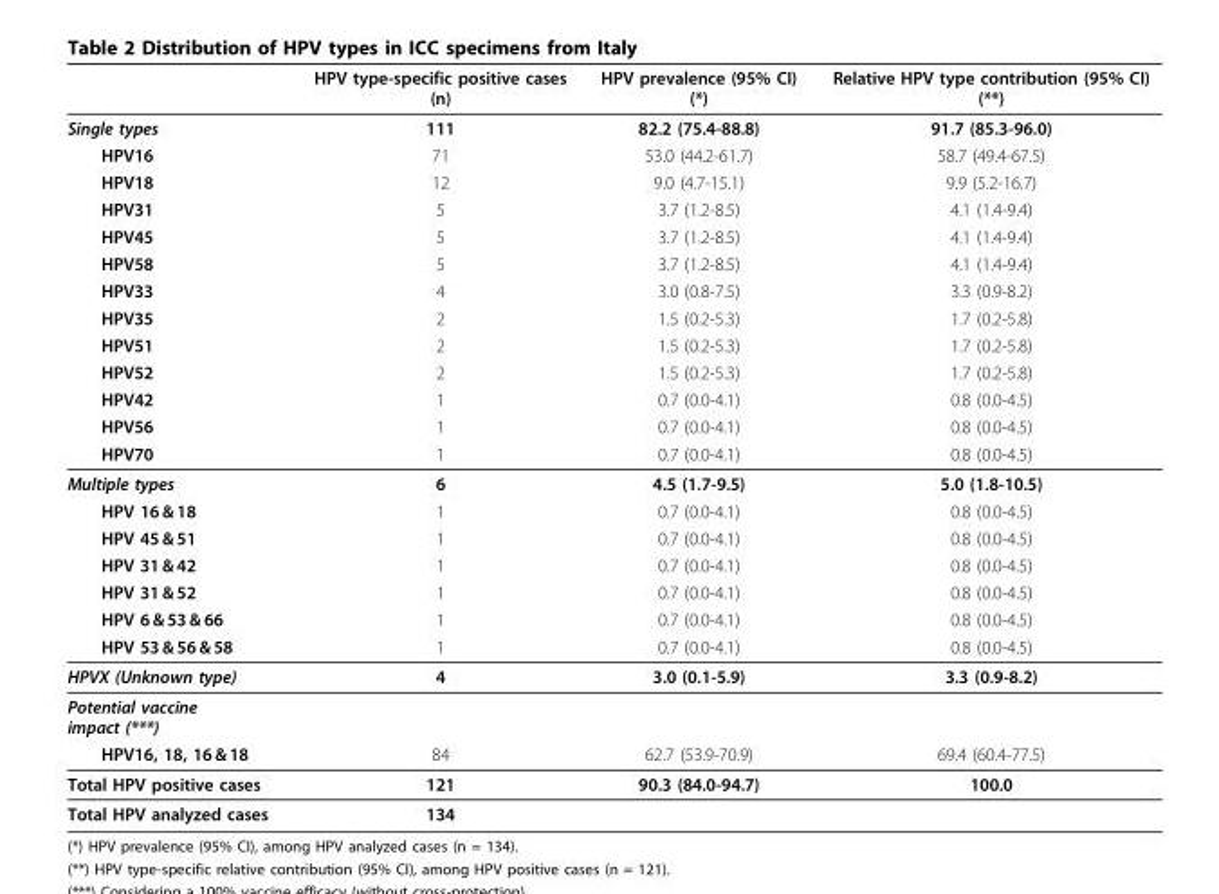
<table><thead><tr><td></td><td>HPV type-specific positive cases (n)</td><td>HPV prevalence (95% CI) (*)</td><td>Relative HPV type contribution (95% CI) (**)</td></tr></thead><tbody><tr><td>Single types</td><td>111</td><td>82.2 (75.4-88.8)</td><td>91.7 (85.3-96.0)</td></tr><tr><td>HPV16</td><td>71</td><td>53.0 (44.2-61.7)</td><td>58.7 (49.4-67.5)</td></tr><tr><td>HPV18</td><td>12</td><td>9.0 (4.7-15.1)</td><td>9.9 (5.2-16.7)</td></tr><tr><td>HPV31</td><td>5</td><td>3.7 (1.2-8.5)</td><td>4.1 (1.4-9.4)</td></tr><tr><td>HPV45</td><td>5</td><td>3.7 (1.2-8.5)</td><td>4.1 (1.4-9.4)</td></tr><tr><td>HPV58</td><td>5</td><td>3.7 (1.2-8.5)</td><td>4.1 (1.4-9.4)</td></tr><tr><td>HPV33</td><td>4</td><td>3.0 (0.8-7.5)</td><td>3.3 (0.9-8.2)</td></tr><tr><td>HPV35</td><td>2</td><td>1.5 (0.2-5.3)</td><td>1.7 (0.2-5.8)</td></tr><tr><td>HPV51</td><td>2</td><td>1.5 (0.2-5.3)</td><td>1.7 (0.2-5.8)</td></tr><tr><td>HPV52</td><td>2</td><td>1.5 (0.2-5.3)</td><td>1.7 (0.2-5.8)</td></tr><tr><td>HPV42</td><td>1</td><td>0.7 (0.0-4.1)</td><td>0.8 (0.0-4.5)</td></tr><tr><td>HPV56</td><td>1</td><td>0.7 (0.0-4.1)</td><td>0.8 (0.0-4.5)</td></tr><tr><td>HPV70</td><td>1</td><td>0.7 (0.0-4.1)</td><td>0.8 (0.0-4.5)</td></tr><tr><td>Multiple types</td><td>6</td><td>4.5 (1.7-9.5)</td><td>5.0 (1.8-10.5)</td></tr><tr><td>HPV 16 &amp; 18</td><td>1</td><td>0.7 (0.0-4.1)</td><td>0.8 (0.0-4.5)</td></tr><tr><td>HPV 45 &amp; 51</td><td>1</td><td>0.7 (0.0-4.1)</td><td>0.8 (0.0-4.5)</td></tr><tr><td>HPV 31 &amp; 42</td><td>1</td><td>0.7 (0.0-4.1)</td><td>0.8 (0.0-4.5)</td></tr><tr><td>HPV 31 &amp; 52</td><td>1</td><td>0.7 (0.0-4.1)</td><td>0.8 (0.0-4.5)</td></tr><tr><td>HPV 6 &amp; 53 &amp; 66</td><td>1</td><td>0.7 (0.0-4.1)</td><td>0.8 (0.0-4.5)</td></tr><tr><td>HPV 53 &amp; 56 &amp; 58</td><td>1</td><td>0.7 (0.0-4.1)</td><td>0.8 (0.0-4.5)</td></tr><tr><td>HPVX (Unknown type)</td><td>4</td><td>3.0 (0.1-5.9)</td><td>3.3 (0.9-8.2)</td></tr><tr><td colspan="4">Potential vaccine impact (***)</td></tr><tr><td>HPV16, 18, 16 &amp; 18</td><td>84</td><td>62.7 (53.9-70.9)</td><td>69.4 (60.4-77.5)</td></tr><tr><td>Total HPV positive cases</td><td>121</td><td>90.3 (84.0-94.7)</td><td>100.0</td></tr><tr><td>Total HPV analyzed cases</td><td>134</td><td></td><td></td></tr></tbody></table>